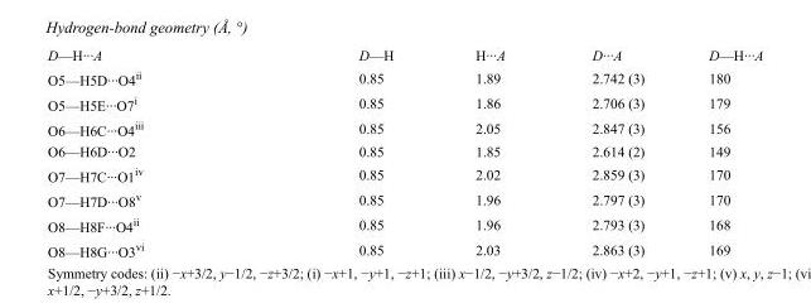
<table><tbody><tr><td>D—H···A</td><td>D—H</td><td>H···A</td><td>D···A</td><td>D—H···A</td></tr><tr><td>O5—H5D···O4<sup>ii</sup></td><td>0.85</td><td>1.89</td><td>2.742 (3)</td><td>180</td></tr><tr><td>O5—H5E···O7<sup>i</sup></td><td>0.85</td><td>1.86</td><td>2.706 (3)</td><td>179</td></tr><tr><td>O6—H6C···O4<sup>iii</sup></td><td>0.85</td><td>2.05</td><td>2.847 (3)</td><td>156</td></tr><tr><td>O6—H6D···O2</td><td>0.85</td><td>1.85</td><td>2.614 (2)</td><td>149</td></tr><tr><td>O7—H7C···O1<sup>iv</sup></td><td>0.85</td><td>2.02</td><td>2.859 (3)</td><td>170</td></tr><tr><td>O7—H7D···O8<sup>v</sup></td><td>0.85</td><td>1.96</td><td>2.797 (3)</td><td>170</td></tr><tr><td>O8—H8F···O4<sup>ii</sup></td><td>0.85</td><td>1.96</td><td>2.793 (3)</td><td>168</td></tr><tr><td>O8—H8G···O3<sup>vi</sup></td><td>0.85</td><td>2.03</td><td>2.863 (3)</td><td>169</td></tr></tbody></table>